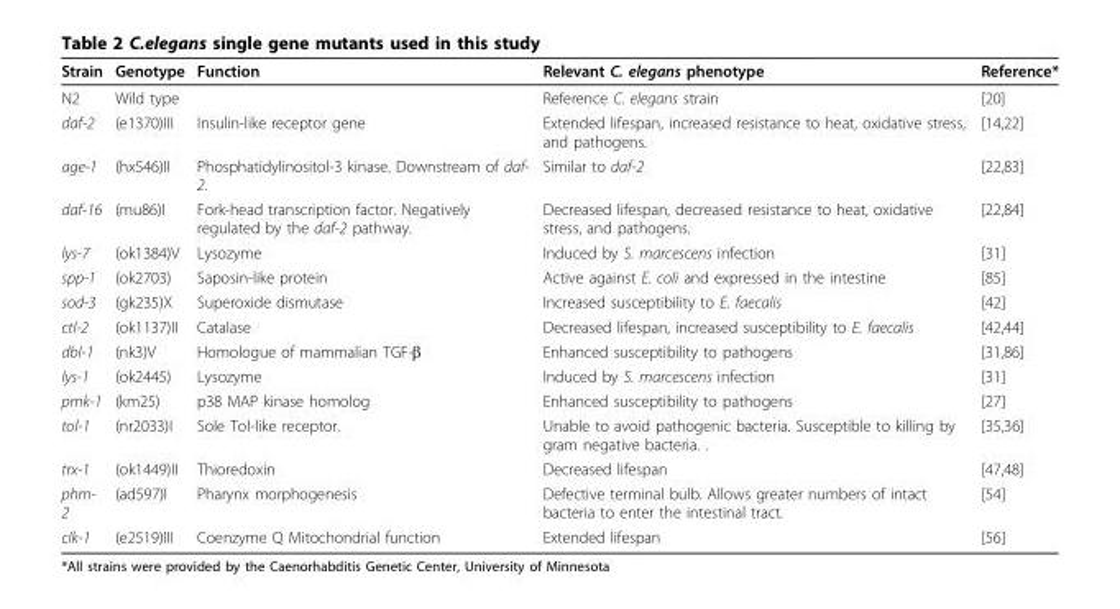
<table><thead><tr><td>Strain</td><td>Genotype</td><td>Function</td><td>Relevant C. elegans phenotype</td><td>Reference*</td></tr></thead><tbody><tr><td>N2</td><td>Wild type</td><td></td><td>Reference C. elegans strain</td><td>[20]</td></tr><tr><td>daf-2</td><td>(e1370)III</td><td>Insulin-like receptor gene</td><td>Extended lifespan, increased resistance to heat, oxidative stress, and pathogens.</td><td>[14,22]</td></tr><tr><td>age-1</td><td>(hx546)II</td><td>Phosphatidylinositol-3 kinase. Downstream of daf- 2.</td><td>Similar to daf-2</td><td>[22,83]</td></tr><tr><td>daf-16</td><td>(mu86)I</td><td>Fork-head transcription factor. Negatively regulated by the daf-2 pathway.</td><td>Decreased lifespan, decreased resistance to heat, oxidative stress, and pathogens.</td><td>[22,84]</td></tr><tr><td>lys-7</td><td>(ok1384)V</td><td>Lysozyme</td><td>Induced by S. marcescens infection</td><td>[31]</td></tr><tr><td>spp-1</td><td>(ok2703)</td><td>Saposin-like protein</td><td>Active against E. coli and expressed in the intestine</td><td>[85]</td></tr><tr><td>sod-3</td><td>(gk235)X</td><td>Superoxide dismutase</td><td>Increased susceptibility to E. faecalis</td><td>[42]</td></tr><tr><td>ctl-2</td><td>(ok1137)II</td><td>Catalase</td><td>Decreased lifespan, increased susceptibility to E. faecalis</td><td>[42,44]</td></tr><tr><td>dbl-1</td><td>(nk3)V</td><td>Homologue of mammalian TGF-β</td><td>Enhanced susceptibility to pathogens</td><td>[31,86]</td></tr><tr><td>lys-1</td><td>(ok2445)</td><td>Lysozyme</td><td>Induced by S. marcescens infection</td><td>[31]</td></tr><tr><td>pmk-1</td><td>(km25)</td><td>p38 MAP kinase homolog</td><td>Enhanced susceptibility to pathogens</td><td>[27]</td></tr><tr><td>tol-1</td><td>(nr2033)I</td><td>Sole Tol-like receptor.</td><td>Unable to avoid pathogenic bacteria. Susceptible to killing by gram negative bacteria. .</td><td>[35,36]</td></tr><tr><td>trx-1</td><td>(ok1449)II</td><td>Thioredoxin</td><td>Decreased lifespan</td><td>[47,48]</td></tr><tr><td>phm- 2</td><td>(ad597)I</td><td>Pharynx morphogenesis</td><td>Defective terminal bulb. Allows greater numbers of intact bacteria to enter the intestinal tract.</td><td>[54]</td></tr><tr><td>clk-1</td><td>(e2519)III</td><td>Coenzyme Q Mitochondrial function</td><td>Extended lifespan</td><td>[56]</td></tr></tbody></table>